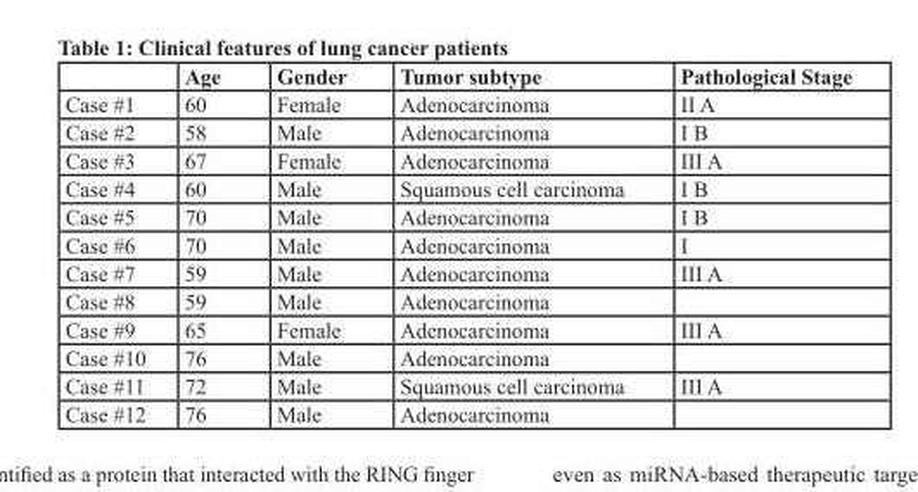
<table><thead><tr><td></td><td>Age</td><td>Gender</td><td>Tumor subtype</td><td>Pathological Stage</td></tr></thead><tbody><tr><td>Case #1</td><td>60</td><td>Female</td><td>Adenocarcinoma</td><td>II A</td></tr><tr><td>Case #2</td><td>58</td><td>Male</td><td>Adenocarcinoma</td><td>I B</td></tr><tr><td>Case #3</td><td>67</td><td>Female</td><td>Adenocarcinoma</td><td>III A</td></tr><tr><td>Case #4</td><td>60</td><td>Male</td><td>Squamous cell carcinoma</td><td>I B</td></tr><tr><td>Case #5</td><td>70</td><td>Male</td><td>Adenocarcinoma</td><td>I B</td></tr><tr><td>Case #6</td><td>70</td><td>Male</td><td>Adenocarcinoma</td><td>I</td></tr><tr><td>Case #7</td><td>59</td><td>Male</td><td>Adenocarcinoma</td><td>III A</td></tr><tr><td>Case #8</td><td>59</td><td>Male</td><td>Adenocarcinoma</td><td></td></tr><tr><td>Case #9</td><td>65</td><td>Female</td><td>Adenocarcinoma</td><td>III A</td></tr><tr><td>Case #10</td><td>76</td><td>Male</td><td>Adenocarcinoma</td><td></td></tr><tr><td>Case #11</td><td>72</td><td>Male</td><td>Squamous cell carcinoma</td><td>III A</td></tr><tr><td>Case #12</td><td>76</td><td>Male</td><td>Adenocarcinoma</td><td></td></tr></tbody></table>